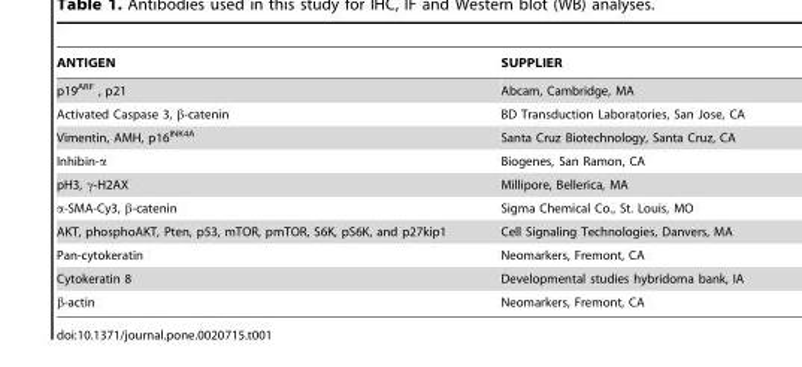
<table><thead><tr><td>ANTIGEN</td><td>SUPPLIER</td></tr></thead><tbody><tr><td>p19<sup>ARF</sup> , p21</td><td>Abcam, Cambridge, MA</td></tr><tr><td>Activated Caspase 3, β-catenin</td><td>BD Transduction Laboratories, San Jose, CA</td></tr><tr><td>Vimentin, AMH, p16<sup>INK4A</sup></td><td>Santa Cruz Biotechnology, Santa Cruz, CA</td></tr><tr><td>Inhibin-α</td><td>Biogenes, San Ramon, CA</td></tr><tr><td>pH3, γ-H2AX</td><td>Millipore, Bellerica, MA</td></tr><tr><td>α-SMA-Cy3, β-catenin</td><td>Sigma Chemical Co., St. Louis, MO</td></tr><tr><td>AKT, phosphoAKT, Pten, p53, mTOR, pmTOR, S6K, pS6K, and p27kip1</td><td>Cell Signaling Technologies, Danvers, MA</td></tr><tr><td>Pan-cytokeratin</td><td>Neomarkers, Fremont, CA</td></tr><tr><td>Cytokeratin 8</td><td>Developmental studies hybridoma bank, IA</td></tr><tr><td>β-actin</td><td>Neomarkers, Fremont, CA</td></tr></tbody></table>